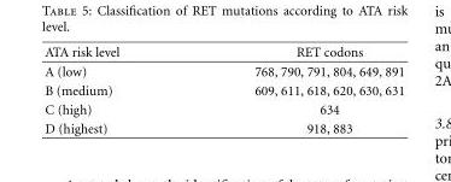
<table><thead><tr><td>ATA risk level</td><td>RET codons</td></tr></thead><tbody><tr><td>A (low)</td><td>768, 790, 791, 804, 649, 891</td></tr><tr><td>B (medium)</td><td>609, 611, 618, 620, 630, 631</td></tr><tr><td>C (high)</td><td>634</td></tr><tr><td>D (highest)</td><td>918, 883</td></tr></tbody></table>